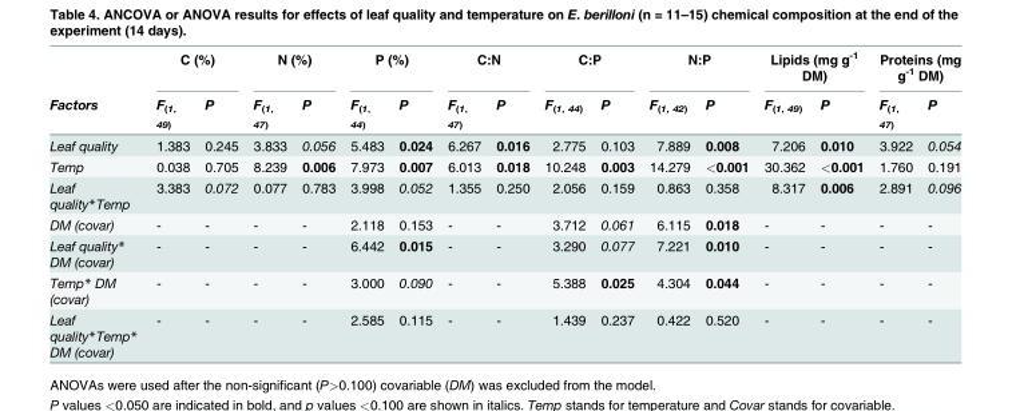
<table><thead><tr><td rowspan="2">Factors</td><td colspan="2">C (%)</td><td colspan="2">N (%)</td><td colspan="2">P (%)</td><td colspan="2">C:N</td><td colspan="2">C:P</td><td colspan="2">N:P</td><td colspan="2">Lipids (mg g<sup>-1</sup> DM)</td><td colspan="2">Proteins (mg g<sup>-1</sup> DM)</td></tr><tr><td>F<sub>(1, 49)</sub></td><td>P</td><td>F<sub>(1, 47)</sub></td><td>P</td><td>F<sub>(1, 44)</sub></td><td>P</td><td>F<sub>(1, 47)</sub></td><td>P</td><td>F<sub>(1, 44)</sub></td><td>P</td><td>F<sub>(1, 42)</sub></td><td>P</td><td>F<sub>(1, 49)</sub></td><td>P</td><td>F<sub>(1, 47)</sub></td><td>P</td></tr></thead><tbody><tr><td>Leaf quality</td><td>1.383</td><td>0.245</td><td>3.833</td><td>0.056</td><td>5.483</td><td>0.024</td><td>6.267</td><td>0.016</td><td>2.775</td><td>0.103</td><td>7.889</td><td>0.008</td><td>7.206</td><td>0.010</td><td>3.922</td><td>0.054</td></tr><tr><td>Temp</td><td>0.038</td><td>0.705</td><td>8.239</td><td>0.006</td><td>7.973</td><td>0.007</td><td>6.013</td><td>0.018</td><td>10.248</td><td>0.003</td><td>14.279</td><td>&lt;0.001</td><td>30.362</td><td>&lt;0.001</td><td>1.760</td><td>0.191</td></tr><tr><td>Leaf quality*Temp</td><td>3.383</td><td>0.072</td><td>0.077</td><td>0.783</td><td>3.998</td><td>0.052</td><td>1.355</td><td>0.250</td><td>2.056</td><td>0.159</td><td>0.863</td><td>0.358</td><td>8.317</td><td>0.006</td><td>2.891</td><td>0.096</td></tr><tr><td>DM (covar)</td><td>-</td><td>-</td><td>-</td><td>-</td><td>2.118</td><td>0.153</td><td>-</td><td>-</td><td>3.712</td><td>0.061</td><td>6.115</td><td>0.018</td><td>-</td><td>-</td><td>-</td><td>-</td></tr><tr><td>Leaf quality* DM (covar)</td><td>-</td><td>-</td><td>-</td><td>-</td><td>6.442</td><td>0.015</td><td>-</td><td>-</td><td>3.290</td><td>0.077</td><td>7.221</td><td>0.010</td><td>-</td><td>-</td><td>-</td><td>-</td></tr><tr><td>Temp* DM (covar)</td><td>-</td><td>-</td><td>-</td><td>-</td><td>3.000</td><td>0.090</td><td>-</td><td>-</td><td>5.388</td><td>0.025</td><td>4.304</td><td>0.044</td><td>-</td><td>-</td><td>-</td><td>-</td></tr><tr><td>Leaf quality*Temp* DM (covar)</td><td>-</td><td>-</td><td>-</td><td>-</td><td>2.585</td><td>0.115</td><td>-</td><td>-</td><td>1.439</td><td>0.237</td><td>0.422</td><td>0.520</td><td>-</td><td>-</td><td>-</td><td>-</td></tr></tbody></table>